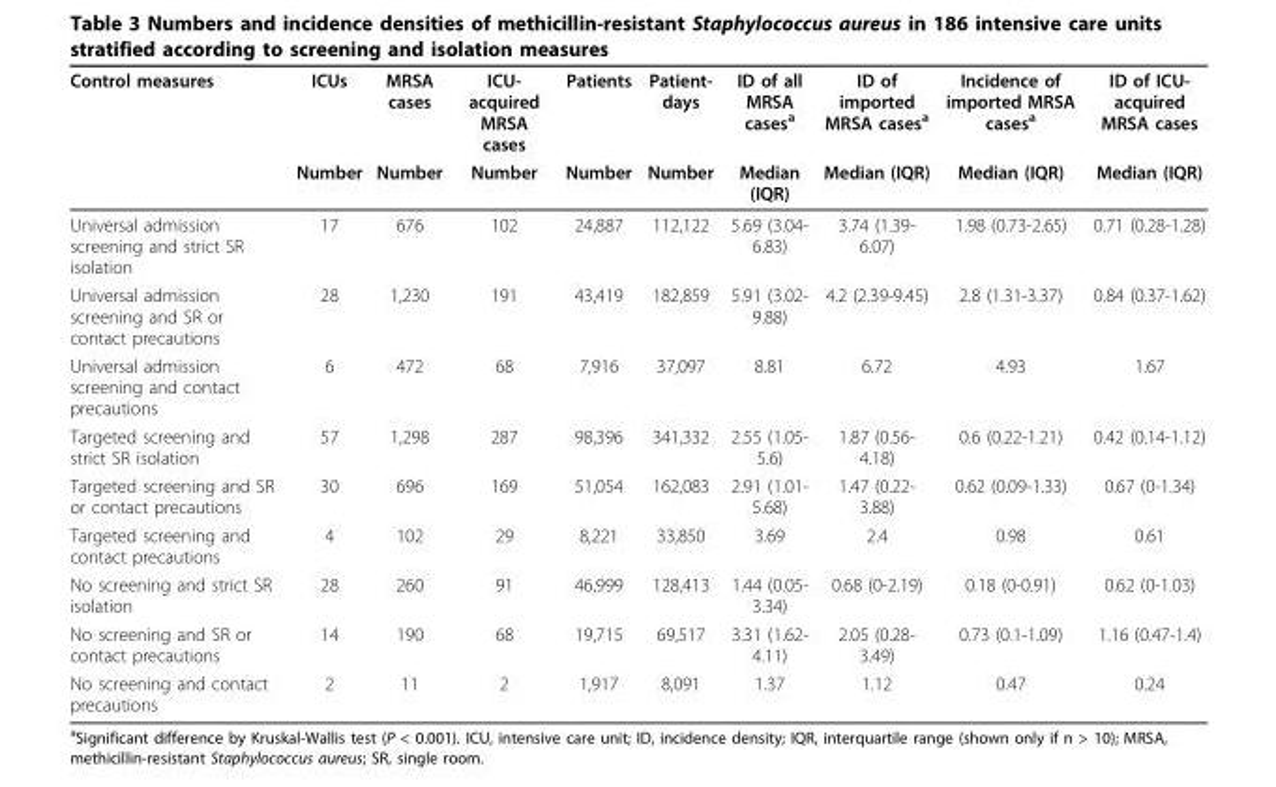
<table><thead><tr><td rowspan="2">Control measures</td><td rowspan="2">ICUs Number</td><td rowspan="2">MRSA cases Number</td><td rowspan="2">ICU- acquired MRSA cases Number</td><td rowspan="2">Patients Number</td><td rowspan="2">Patient- days Number</td><td rowspan="2">ID of all MRSA cases<sup>a</sup> Median (IQR)</td><td rowspan="2">ID of imported MRSA cases<sup>a</sup> Median (IQR)</td><td rowspan="2">Incidence of imported MRSA cases<sup>a</sup> Median (IQR)</td><td rowspan="2">ID of ICU- acquired MRSA cases Median (IQR)</td></tr><tr></tr></thead><tbody><tr><td>Universal admission screening and strict SR isolation</td><td>17</td><td>676</td><td>102</td><td>24,887</td><td>112,122</td><td>5.69 (3.04- 6.83)</td><td>3.74 (1.39- 6.07)</td><td>1.98 (0.73-2.65)</td><td>0.71 (0.28-1.28)</td></tr><tr><td>Universal admission screening and SR or contact precautions</td><td>28</td><td>1,230</td><td>191</td><td>43,419</td><td>182,859</td><td>5.91 (3.02- 9.88)</td><td>4.2 (2.39-9.45)</td><td>2.8 (1.31-3.37)</td><td>0.84 (0.37-1.62)</td></tr><tr><td>Universal admission screening and contact precautions</td><td>6</td><td>472</td><td>68</td><td>7,916</td><td>37,097</td><td>8.81</td><td>6.72</td><td>4.93</td><td>1.67</td></tr><tr><td>Targeted screening and strict SR isolation</td><td>57</td><td>1,298</td><td>287</td><td>98,396</td><td>341,332</td><td>2.55 (1.05- 5.6)</td><td>1.87 (0.56- 4.18)</td><td>0.6 (0.22-1.21)</td><td>0.42 (0.14-1.12)</td></tr><tr><td>Targeted screening and SR or contact precautions</td><td>30</td><td>696</td><td>169</td><td>51,054</td><td>162,083</td><td>2.91 (1.01- 5.68)</td><td>1.47 (0.22- 3.88)</td><td>0.62 (0.09-1.33)</td><td>0.67 (0-1.34)</td></tr><tr><td>Targeted screening and contact precautions</td><td>4</td><td>102</td><td>29</td><td>8,221</td><td>33,850</td><td>3.69</td><td>2.4</td><td>0.98</td><td>0.61</td></tr><tr><td>No screening and strict SR isolation</td><td>28</td><td>260</td><td>91</td><td>46,999</td><td>128,413</td><td>1.44 (0.05- 3.34)</td><td>0.68 (0-2.19)</td><td>0.18 (0-0.91)</td><td>0.62 (0-1.03)</td></tr><tr><td>No screening and SR or contact precautions</td><td>14</td><td>190</td><td>68</td><td>19,715</td><td>69,517</td><td>3.31 (1.62- 4.11)</td><td>2.05 (0.28- 3.49)</td><td>0.73 (0.1-1.09)</td><td>1.16 (0.47-1.4)</td></tr><tr><td>No screening and contact precautions</td><td>2</td><td>11</td><td>2</td><td>1,917</td><td>8,091</td><td>1.37</td><td>1.12</td><td>0.47</td><td>0.24</td></tr></tbody></table>